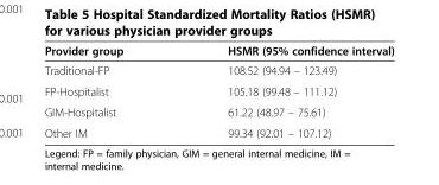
<table><thead><tr><td>Provider group</td><td>HSMR (95% confidence interval)</td></tr></thead><tbody><tr><td>Traditional-FP</td><td>108.52 (94.94 – 123.49)</td></tr><tr><td>FP-Hospitalist</td><td>105.18 (99.48 – 111.12)</td></tr><tr><td>GIM-Hospitalist</td><td>61.22 (48.97 – 75.61)</td></tr><tr><td>Other IM</td><td>99.34 (92.01 – 107.12)</td></tr></tbody></table>